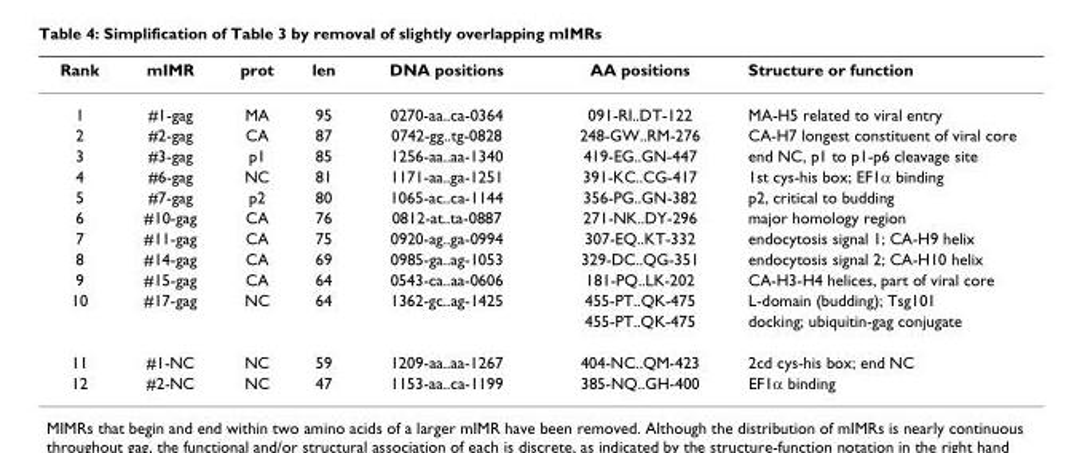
<table><thead><tr><td>Rank</td><td>mIMR</td><td>prot</td><td>len</td><td>DNA positions</td><td>AA positions</td><td>Structure or function</td></tr></thead><tbody><tr><td>1</td><td>#1-gag</td><td>MA</td><td>95</td><td>0270-aa..ca-0364</td><td>091-RI..DT-122</td><td>MA-H5 related to viral entry</td></tr><tr><td>2</td><td>#2-gag</td><td>CA</td><td>87</td><td>0742-gg..tg-0828</td><td>248-GW..RM-276</td><td>CA-H7 longest constituent of viral core</td></tr><tr><td>3</td><td>#3-gag</td><td>p1</td><td>85</td><td>1256-aa..aa-1340</td><td>419-EG..GN-447</td><td>end NC, p1 to p1-p6 cleavage site</td></tr><tr><td>4</td><td>#6-gag</td><td>NC</td><td>81</td><td>1171-aa..ga-1251</td><td>391-KC..CG-417</td><td>1st cys-his box; EF1α binding</td></tr><tr><td>5</td><td>#7-gag</td><td>p2</td><td>80</td><td>1065-ac..ca-1144</td><td>356-PG..GN-382</td><td>p2, critical to budding</td></tr><tr><td>6</td><td>#10-gag</td><td>CA</td><td>76</td><td>0812-at..ta-0887</td><td>271-NK..DY-296</td><td>major homology region</td></tr><tr><td>7</td><td>#11-gag</td><td>CA</td><td>75</td><td>0920-ag..ga-0994</td><td>307-EQ..KT-332</td><td>endocytosis signal 1; CA-H9 helix</td></tr><tr><td>8</td><td>#14-gag</td><td>CA</td><td>69</td><td>0985-ga..ag-1053</td><td>329-DC..QG-351</td><td>endocytosis signal 2; CA-H10 helix</td></tr><tr><td>9</td><td>#15-gag</td><td>CA</td><td>64</td><td>0543-ca..aa-0606</td><td>181-PQ..LK-202</td><td>CA-H3-H4 helices, part of viral core</td></tr><tr><td rowspan="2">10</td><td>#17-gag</td><td>NC</td><td>64</td><td>1362-gc..ag-1425</td><td>455-PT..QK-475</td><td>L-domain (budding); Tsg101</td></tr><tr><td></td><td></td><td></td><td></td><td>455-PT..QK-475</td><td>docking; ubiquitin-gag conjugate</td></tr><tr><td>11</td><td>#1-NC</td><td>NC</td><td>59</td><td>1209-aa..aa-1267</td><td>404-NC..QM-423</td><td>2cd cys-his box; end NC</td></tr><tr><td>12</td><td>#2-NC</td><td>NC</td><td>47</td><td>1153-aa..ca-1199</td><td>385-NQ..GH-400</td><td>EF1α binding</td></tr></tbody></table>